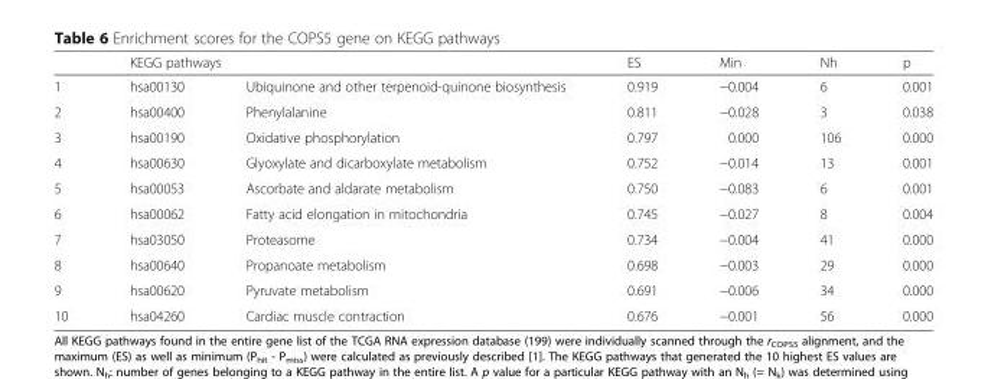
<table><thead><tr><td rowspan="2">1</td><td colspan="2">KEGG pathways</td><td rowspan="2">ES 0.919</td><td rowspan="2">Min −0.004</td><td rowspan="2">Nh 6</td><td rowspan="2">p 0.001</td></tr><tr><td>hsa00130</td><td>Ubiquinone and other terpenoid-quinone biosynthesis</td></tr></thead><tbody><tr><td>2</td><td>hsa00400</td><td>Phenylalanine</td><td>0.811</td><td>−0.028</td><td>3</td><td>0.038</td></tr><tr><td>3</td><td>hsa00190</td><td>Oxidative phosphorylation</td><td>0.797</td><td>0.000</td><td>106</td><td>0.000</td></tr><tr><td>4</td><td>hsa00630</td><td>Glyoxylate and dicarboxylate metabolism</td><td>0.752</td><td>−0.014</td><td>13</td><td>0.001</td></tr><tr><td>5</td><td>hsa00053</td><td>Ascorbate and aldarate metabolism</td><td>0.750</td><td>−0.083</td><td>6</td><td>0.001</td></tr><tr><td>6</td><td>hsa00062</td><td>Fatty acid elongation in mitochondria</td><td>0.745</td><td>−0.027</td><td>8</td><td>0.004</td></tr><tr><td>7</td><td>hsa03050</td><td>Proteasome</td><td>0.734</td><td>−0.004</td><td>41</td><td>0.000</td></tr><tr><td>8</td><td>hsa00640</td><td>Propanoate metabolism</td><td>0.698</td><td>−0.003</td><td>29</td><td>0.000</td></tr><tr><td>9</td><td>hsa00620</td><td>Pyruvate metabolism</td><td>0.691</td><td>−0.006</td><td>34</td><td>0.000</td></tr><tr><td>10</td><td>hsa04260</td><td>Cardiac muscle contraction</td><td>0.676</td><td>−0.001</td><td>56</td><td>0.000</td></tr></tbody></table>